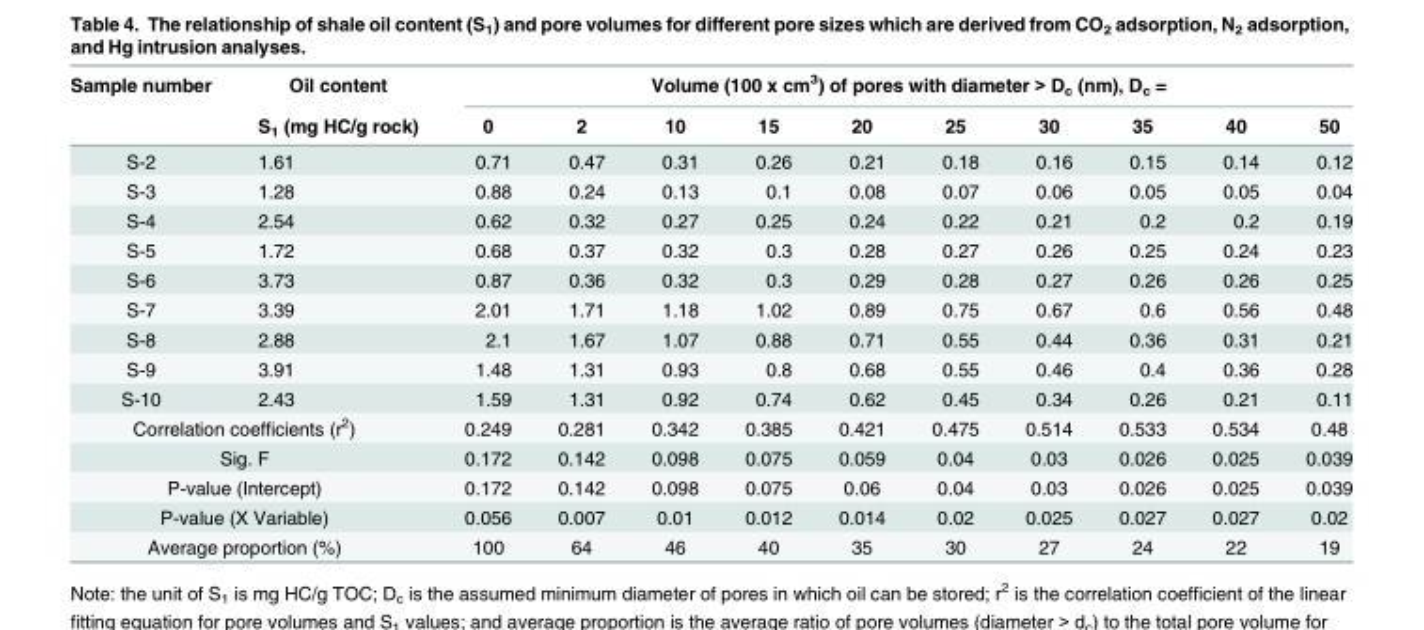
<table><thead><tr><td rowspan="2">Sample number</td><td rowspan="2">Oil content S<sub>1</sub> (mg HC/g rock)</td><td colspan="10">Volume (100 x cm<sup>3</sup>) of pores with diameter &gt; D<sub>c</sub> (nm), D<sub>c</sub> =</td></tr><tr><td>0</td><td>2</td><td>10</td><td>15</td><td>20</td><td>25</td><td>30</td><td>35</td><td>40</td><td>50</td></tr></thead><tbody><tr><td>S-2</td><td>1.61</td><td>0.71</td><td>0.47</td><td>0.31</td><td>0.26</td><td>0.21</td><td>0.18</td><td>0.16</td><td>0.15</td><td>0.14</td><td>0.12</td></tr><tr><td>S-3</td><td>1.28</td><td>0.88</td><td>0.24</td><td>0.13</td><td>0.1</td><td>0.08</td><td>0.07</td><td>0.06</td><td>0.05</td><td>0.05</td><td>0.04</td></tr><tr><td>S-4</td><td>2.54</td><td>0.62</td><td>0.32</td><td>0.27</td><td>0.25</td><td>0.24</td><td>0.22</td><td>0.21</td><td>0.2</td><td>0.2</td><td>0.19</td></tr><tr><td>S-5</td><td>1.72</td><td>0.68</td><td>0.37</td><td>0.32</td><td>0.3</td><td>0.28</td><td>0.27</td><td>0.26</td><td>0.25</td><td>0.24</td><td>0.23</td></tr><tr><td>S-6</td><td>3.73</td><td>0.87</td><td>0.36</td><td>0.32</td><td>0.3</td><td>0.29</td><td>0.28</td><td>0.27</td><td>0.26</td><td>0.26</td><td>0.25</td></tr><tr><td>S-7</td><td>3.39</td><td>2.01</td><td>1.71</td><td>1.18</td><td>1.02</td><td>0.89</td><td>0.75</td><td>0.67</td><td>0.6</td><td>0.56</td><td>0.48</td></tr><tr><td>S-8</td><td>2.88</td><td>2.1</td><td>1.67</td><td>1.07</td><td>0.88</td><td>0.71</td><td>0.55</td><td>0.44</td><td>0.36</td><td>0.31</td><td>0.21</td></tr><tr><td>S-9</td><td>3.91</td><td>1.48</td><td>1.31</td><td>0.93</td><td>0.8</td><td>0.68</td><td>0.55</td><td>0.46</td><td>0.4</td><td>0.36</td><td>0.28</td></tr><tr><td>S-10</td><td>2.43</td><td>1.59</td><td>1.31</td><td>0.92</td><td>0.74</td><td>0.62</td><td>0.45</td><td>0.34</td><td>0.26</td><td>0.21</td><td>0.11</td></tr><tr><td colspan="2">Correlation coefficients (r<sup>2</sup>)</td><td>0.249</td><td>0.281</td><td>0.342</td><td>0.385</td><td>0.421</td><td>0.475</td><td>0.514</td><td>0.533</td><td>0.534</td><td>0.48</td></tr><tr><td colspan="2">Sig. F</td><td>0.172</td><td>0.142</td><td>0.098</td><td>0.075</td><td>0.059</td><td>0.04</td><td>0.03</td><td>0.026</td><td>0.025</td><td>0.039</td></tr><tr><td colspan="2">P-value (Intercept)</td><td>0.172</td><td>0.142</td><td>0.098</td><td>0.075</td><td>0.06</td><td>0.04</td><td>0.03</td><td>0.026</td><td>0.025</td><td>0.039</td></tr><tr><td colspan="2">P-value (X Variable)</td><td>0.056</td><td>0.007</td><td>0.01</td><td>0.012</td><td>0.014</td><td>0.02</td><td>0.025</td><td>0.027</td><td>0.027</td><td>0.02</td></tr><tr><td colspan="2">Average proportion (%)</td><td>100</td><td>64</td><td>46</td><td>40</td><td>35</td><td>30</td><td>27</td><td>24</td><td>22</td><td>19</td></tr></tbody></table>